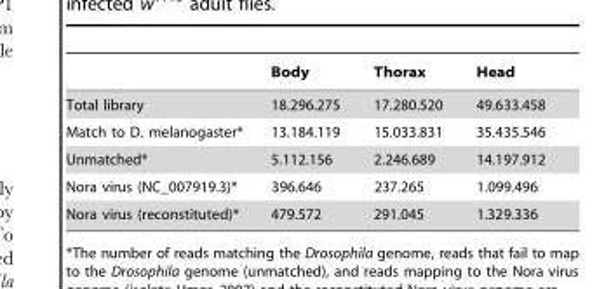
<table><thead><tr><td></td><td>Body</td><td>Thorax</td><td>Head</td></tr></thead><tbody><tr><td>Total library</td><td>18.296.275</td><td>17.280.520</td><td>49.633.458</td></tr><tr><td>Match to D. melanogaster*</td><td>13.184.119</td><td>15.033.831</td><td>35.435.546</td></tr><tr><td>Unmatched*</td><td>5.112.156</td><td>2.246.689</td><td>14.197.912</td></tr><tr><td>Nora virus (NC_007919.3)*</td><td>396.646</td><td>237.265</td><td>1.099.496</td></tr><tr><td>Nora virus (reconstituted)*</td><td>479.572</td><td>291.045</td><td>1.329.336</td></tr></tbody></table>